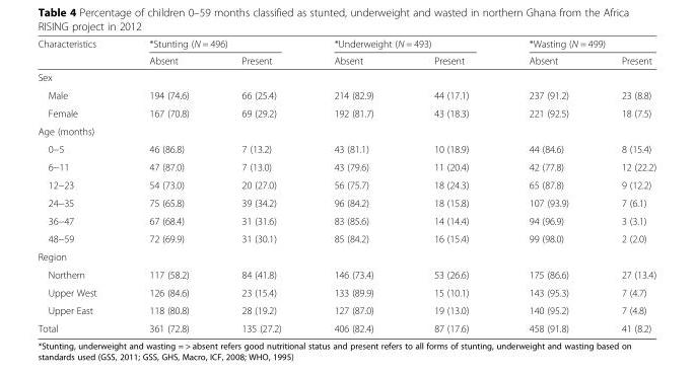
<table><thead><tr><td rowspan="2">Characteristics</td><td colspan="2">*Stunting (N = 496)</td><td colspan="2">*Underweight (N = 493)</td><td colspan="2">*Wasting (N = 499)</td></tr><tr><td>Absent</td><td>Present</td><td>Absent</td><td>Present</td><td>Absent</td><td>Present</td></tr></thead><tbody><tr><td colspan="7">Sex</td></tr><tr><td>Male</td><td>194 (74.6)</td><td>66 (25.4)</td><td>214 (82.9)</td><td>44 (17.1)</td><td>237 (91.2)</td><td>23 (8.8)</td></tr><tr><td>Female</td><td>167 (70.8)</td><td>69 (29.2)</td><td>192 (81.7)</td><td>43 (18.3)</td><td>221 (92.5)</td><td>18 (7.5)</td></tr><tr><td colspan="7">Age (months)</td></tr><tr><td>0−5</td><td>46 (86.8)</td><td>7 (13.2)</td><td>43 (81.1)</td><td>10 (18.9)</td><td>44 (84.6)</td><td>8 (15.4)</td></tr><tr><td>6−11</td><td>47 (87.0)</td><td>7 (13.0)</td><td>43 (79.6)</td><td>11 (20.4)</td><td>42 (77.8)</td><td>12 (22.2)</td></tr><tr><td>12−23</td><td>54 (73.0)</td><td>20 (27.0)</td><td>56 (75.7)</td><td>18 (24.3)</td><td>65 (87.8)</td><td>9 (12.2)</td></tr><tr><td>24−35</td><td>75 (65.8)</td><td>39 (34.2)</td><td>96 (84.2)</td><td>18 (15.8)</td><td>107 (93.9)</td><td>7 (6.1)</td></tr><tr><td>36−47</td><td>67 (68.4)</td><td>31 (31.6)</td><td>83 (85.6)</td><td>14 (14.4)</td><td>94 (96.9)</td><td>3 (3.1)</td></tr><tr><td>48−59</td><td>72 (69.9)</td><td>31 (30.1)</td><td>85 (84.2)</td><td>16 (15.4)</td><td>99 (98.0)</td><td>2 (2.0)</td></tr><tr><td colspan="7">Region</td></tr><tr><td>Northern</td><td>117 (58.2)</td><td>84 (41.8)</td><td>146 (73.4)</td><td>53 (26.6)</td><td>175 (86.6)</td><td>27 (13.4)</td></tr><tr><td>Upper West</td><td>126 (84.6)</td><td>23 (15.4)</td><td>133 (89.9)</td><td>15 (10.1)</td><td>143 (95.3)</td><td>7 (4.7)</td></tr><tr><td>Upper East</td><td>118 (80.8)</td><td>28 (19.2)</td><td>127 (87.0)</td><td>19 (13.0)</td><td>140 (95.2)</td><td>7 (4.8)</td></tr><tr><td>Total</td><td>361 (72.8)</td><td>135 (27.2)</td><td>406 (82.4)</td><td>87 (17.6)</td><td>458 (91.8)</td><td>41 (8.2)</td></tr></tbody></table>